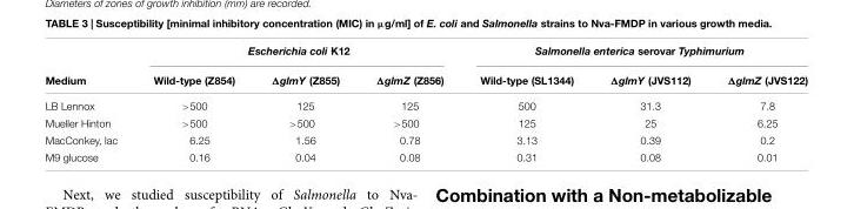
<table><thead><tr><td rowspan="2">Medium</td><td colspan="3">Escherichia coli K12</td><td colspan="3">Salmonella enterica serovar Typhimurium</td></tr><tr><td>Wild-type (Z854)</td><td>ΔglmY (Z855)</td><td>ΔglmZ (Z856)</td><td>Wild-type (SL1344)</td><td>ΔglmY (JVS112)</td><td>ΔglmZ (JVS122)</td></tr></thead><tbody><tr><td>LB Lennox</td><td>&gt;500</td><td>125</td><td>125</td><td>500</td><td>31.3</td><td>7.8</td></tr><tr><td>Mueller Hinton</td><td>&gt;500</td><td>&gt;500</td><td>&gt;500</td><td>125</td><td>25</td><td>6.25</td></tr><tr><td>MacConkey, lac</td><td>6.25</td><td>1.56</td><td>0.78</td><td>3.13</td><td>0.39</td><td>0.2</td></tr><tr><td>M9 glucose</td><td>0.16</td><td>0.04</td><td>0.08</td><td>0.31</td><td>0.08</td><td>0.01</td></tr></tbody></table>